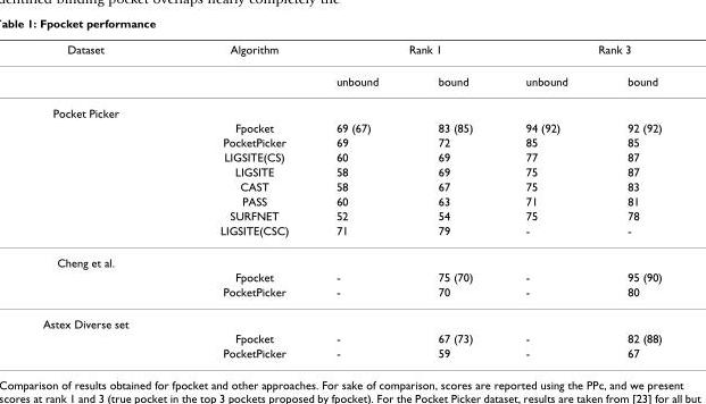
<table><thead><tr><td rowspan="2">Dataset</td><td rowspan="2">Algorithm</td><td colspan="2">Rank 1</td><td colspan="2">Rank 3</td></tr><tr><td>unbound</td><td>bound</td><td>unbound</td><td>bound</td></tr></thead><tbody><tr><td colspan="6">Pocket Picker</td></tr><tr><td></td><td>Fpocket</td><td>69 (67)</td><td>83 (85)</td><td>94 (92)</td><td>92 (92)</td></tr><tr><td></td><td>PocketPicker</td><td>69</td><td>72</td><td>85</td><td>85</td></tr><tr><td></td><td>LIGSITE(CS)</td><td>60</td><td>69</td><td>77</td><td>87</td></tr><tr><td></td><td>LIGSITE</td><td>58</td><td>69</td><td>75</td><td>87</td></tr><tr><td></td><td>CAST</td><td>58</td><td>67</td><td>75</td><td>83</td></tr><tr><td></td><td>PASS</td><td>60</td><td>63</td><td>71</td><td>81</td></tr><tr><td></td><td>SURFNET</td><td>52</td><td>54</td><td>75</td><td>78</td></tr><tr><td></td><td>LIGSITE(CSC)</td><td>71</td><td>79</td><td>-</td><td>-</td></tr><tr><td colspan="6">Cheng et al.</td></tr><tr><td></td><td>Fpocket</td><td>-</td><td>75 (70)</td><td>-</td><td>95 (90)</td></tr><tr><td></td><td>PocketPicker</td><td>-</td><td>70</td><td>-</td><td>80</td></tr><tr><td colspan="6">Astex Diverse set</td></tr><tr><td></td><td>Fpocket</td><td>-</td><td>67 (73)</td><td>-</td><td>82 (88)</td></tr><tr><td></td><td>PocketPicker</td><td>-</td><td>59</td><td>-</td><td>67</td></tr></tbody></table>